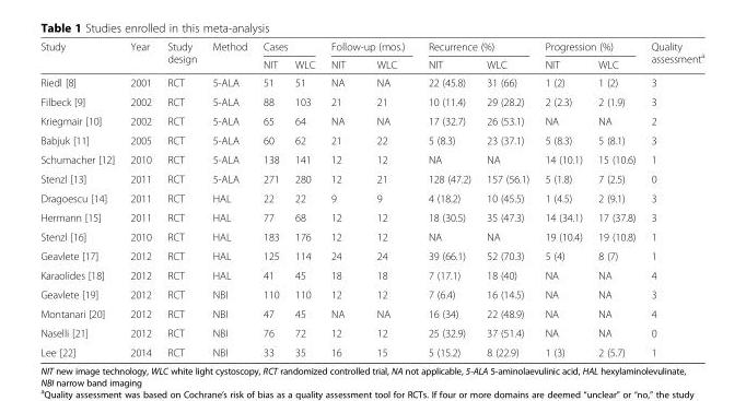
<table><thead><tr><td rowspan="2">Study</td><td rowspan="2">Year</td><td rowspan="2">Study design</td><td rowspan="2">Method</td><td colspan="2">Cases</td><td colspan="2">Follow-up (mos.)</td><td colspan="2">Recurrence (%)</td><td colspan="2">Progression (%)</td><td rowspan="2">Quality assessment<sup>a</sup></td></tr><tr><td>NIT</td><td>WLC</td><td>NIT</td><td>WLC</td><td>NIT</td><td>WLC</td><td>NIT</td><td>WLC</td></tr></thead><tbody><tr><td>Riedl [8]</td><td>2001</td><td>RCT</td><td>5-ALA</td><td>51</td><td>51</td><td>NA</td><td>NA</td><td>22 (45.8)</td><td>31 (66)</td><td>1 (2)</td><td>1 (2)</td><td>3</td></tr><tr><td>Filbeck [9]</td><td>2002</td><td>RCT</td><td>5-ALA</td><td>88</td><td>103</td><td>21</td><td>21</td><td>10 (11.4)</td><td>29 (28.2)</td><td>2 (2.3)</td><td>2 (1.9)</td><td>3</td></tr><tr><td>Kriegmair [10]</td><td>2002</td><td>RCT</td><td>5-ALA</td><td>65</td><td>64</td><td>NA</td><td>NA</td><td>17 (32.7)</td><td>26 (53.1)</td><td>NA</td><td>NA</td><td>2</td></tr><tr><td>Babjuk [11]</td><td>2005</td><td>RCT</td><td>5-ALA</td><td>60</td><td>62</td><td>21</td><td>22</td><td>5 (8.3)</td><td>23 (37.1)</td><td>5 (8.3)</td><td>5 (8.1)</td><td>3</td></tr><tr><td>Schumacher [12]</td><td>2010</td><td>RCT</td><td>5-ALA</td><td>138</td><td>141</td><td>12</td><td>12</td><td>NA</td><td>NA</td><td>14 (10.1)</td><td>15 (10.6)</td><td>1</td></tr><tr><td>Stenzl [13]</td><td>2011</td><td>RCT</td><td>5-ALA</td><td>271</td><td>280</td><td>12</td><td>21</td><td>128 (47.2)</td><td>157 (56.1)</td><td>5 (1.8)</td><td>7 (2.5)</td><td>0</td></tr><tr><td>Dragoescu [14]</td><td>2011</td><td>RCT</td><td>HAL</td><td>22</td><td>22</td><td>9</td><td>9</td><td>4 (18.2)</td><td>10 (45.5)</td><td>1 (4.5)</td><td>2 (9.1)</td><td>3</td></tr><tr><td>Hermann [15]</td><td>2011</td><td>RCT</td><td>HAL</td><td>77</td><td>68</td><td>12</td><td>12</td><td>18 (30.5)</td><td>35 (47.3)</td><td>14 (34.1)</td><td>17 (37.8)</td><td>3</td></tr><tr><td>Stenzl [16]</td><td>2010</td><td>RCT</td><td>HAL</td><td>183</td><td>176</td><td>12</td><td>12</td><td>NA</td><td>NA</td><td>19 (10.4)</td><td>19 (10.8)</td><td>1</td></tr><tr><td>Geavlete [17]</td><td>2012</td><td>RCT</td><td>HAL</td><td>125</td><td>114</td><td>24</td><td>24</td><td>39 (66.1)</td><td>52 (70.3)</td><td>5 (4)</td><td>8 (7)</td><td>1</td></tr><tr><td>Karaolides [18]</td><td>2012</td><td>RCT</td><td>HAL</td><td>41</td><td>45</td><td>18</td><td>18</td><td>7 (17.1)</td><td>18 (40)</td><td>NA</td><td>NA</td><td>4</td></tr><tr><td>Geavlete [19]</td><td>2012</td><td>RCT</td><td>NBI</td><td>110</td><td>110</td><td>12</td><td>12</td><td>7 (6.4)</td><td>16 (14.5)</td><td>NA</td><td>NA</td><td>3</td></tr><tr><td>Montanari [20]</td><td>2012</td><td>RCT</td><td>NBI</td><td>47</td><td>45</td><td>NA</td><td>NA</td><td>16 (34)</td><td>22 (48.9)</td><td>NA</td><td>NA</td><td>4</td></tr><tr><td>Naselli [21]</td><td>2012</td><td>RCT</td><td>NBI</td><td>76</td><td>72</td><td>12</td><td>12</td><td>25 (32.9)</td><td>37 (51.4)</td><td>NA</td><td>NA</td><td>0</td></tr><tr><td>Lee [22]</td><td>2014</td><td>RCT</td><td>NBI</td><td>33</td><td>35</td><td>16</td><td>15</td><td>5 (15.2)</td><td>8 (22.9)</td><td>1 (3)</td><td>2 (5.7)</td><td>1</td></tr></tbody></table>